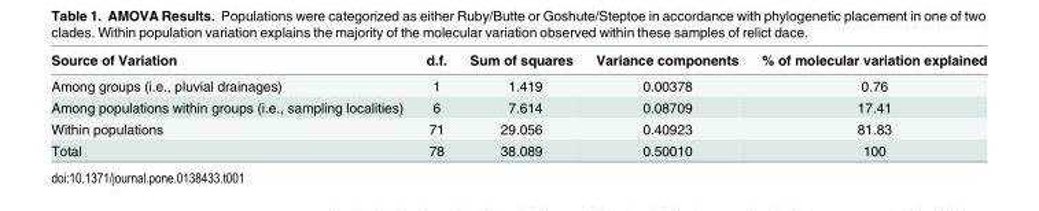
<table><thead><tr><td>Source of Variation</td><td>d.f.</td><td>Sum of squares</td><td>Variance components</td><td>% of molecular variation explained</td></tr></thead><tbody><tr><td>Among groups (i.e., pluvial drainages)</td><td>1</td><td>1.419</td><td>0.00378</td><td>0.76</td></tr><tr><td>Among populations within groups (i.e., sampling localities)</td><td>6</td><td>7.614</td><td>0.08709</td><td>17.41</td></tr><tr><td>Within populations</td><td>71</td><td>29.056</td><td>0.40923</td><td>81.83</td></tr><tr><td>Total</td><td>78</td><td>38.089</td><td>0.50010</td><td>100</td></tr></tbody></table>